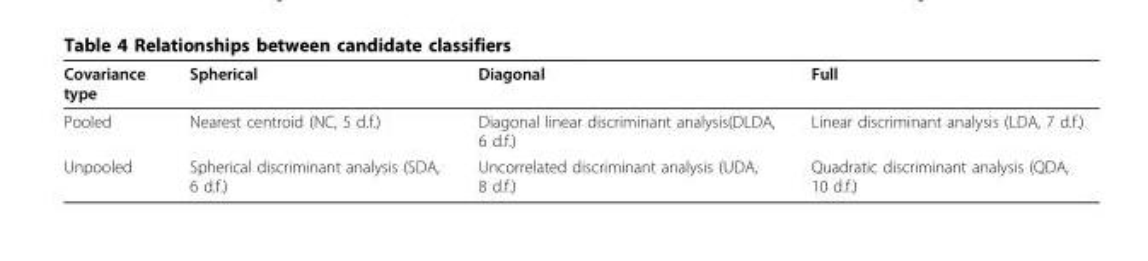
<table><thead><tr><td>Covariance type</td><td>Spherical</td><td>Diagonal</td><td>Full</td></tr></thead><tbody><tr><td>Pooled</td><td>Nearest centroid (NC, 5 d.f.)</td><td>Diagonal linear discriminant analysis(DLDA, 6 d.f.)</td><td>Linear discriminant analysis (LDA, 7 d.f.)</td></tr><tr><td>Unpooled</td><td>Spherical discriminant analysis (SDA, 6 d.f.)</td><td>Uncorrelated discriminant analysis (UDA, 8 d.f.)</td><td>Quadratic discriminant analysis (QDA, 10 d.f.)</td></tr></tbody></table>